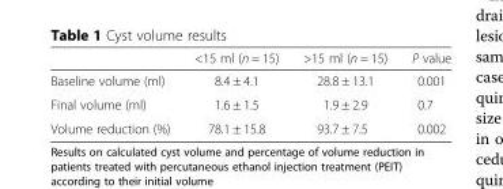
<table><thead><tr><td></td><td>&lt;15 ml (n = 15)</td><td>&gt;15 ml (n = 15)</td><td>P value</td></tr></thead><tbody><tr><td>Baseline volume (ml)</td><td>8.4 ± 4.1</td><td>28.8 ± 13.1</td><td>0.001</td></tr><tr><td>Final volume (ml)</td><td>1.6 ± 1.5</td><td>1.9 ± 2.9</td><td>0.7</td></tr><tr><td>Volume reduction (%)</td><td>78.1 ± 15.8</td><td>93.7 ± 7.5</td><td>0.002</td></tr></tbody></table>